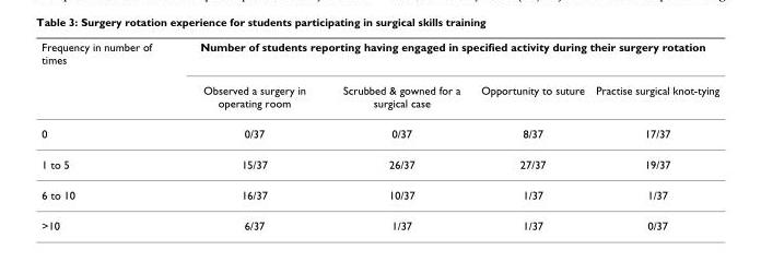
<table><thead><tr><td rowspan="2">Frequency in number of times</td><td colspan="4">Number of students reporting having engaged in specified activity during their surgery rotation</td></tr><tr><td>Observed a surgery in operating room</td><td>Scrubbed &amp; gowned for a surgical case</td><td>Opportunity to suture</td><td>Practise surgical knot-tying</td></tr></thead><tbody><tr><td>0</td><td>0/37</td><td>0/37</td><td>8/37</td><td>17/37</td></tr><tr><td>1 to 5</td><td>15/37</td><td>26/37</td><td>27/37</td><td>19/37</td></tr><tr><td>6 to 10</td><td>16/37</td><td>10/37</td><td>1/37</td><td>1/37</td></tr><tr><td>&gt;10</td><td>6/37</td><td>1/37</td><td>1/37</td><td>0/37</td></tr></tbody></table>